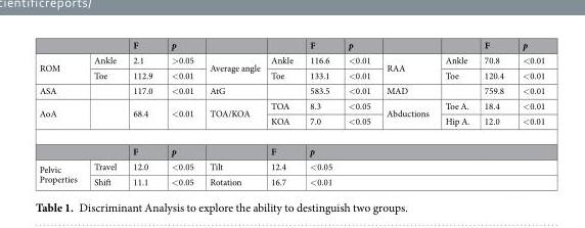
<table><thead><tr><td></td><td></td><td>F</td><td>p</td><td></td><td></td><td>F</td><td>p</td><td></td><td></td><td>F</td><td>p</td></tr></thead><tbody><tr><td rowspan="2">ROM</td><td>Ankle</td><td>2.1</td><td>&gt;0.05</td><td rowspan="2">Average angle</td><td>Ankle</td><td>116.6</td><td>&lt;0.01</td><td rowspan="2">RAA</td><td>Ankle</td><td>70.8</td><td>&lt;0.01</td></tr><tr><td>Toe</td><td>112.9</td><td>&lt;0.01</td><td>Toe</td><td>133.1</td><td>&lt;0.01</td><td>Toe</td><td>120.4</td><td>&lt;0.01</td></tr><tr><td>ASA</td><td></td><td>117.0</td><td>&lt;0.01</td><td>AtG</td><td></td><td>583.5</td><td>&lt;0.01</td><td>MAD</td><td></td><td>759.8</td><td>&lt;0.01</td></tr><tr><td rowspan="2">AoA</td><td rowspan="2"></td><td rowspan="2">68.4</td><td rowspan="2">&lt;0.01</td><td rowspan="2">TOA/KOA</td><td>TOA</td><td>8.3</td><td>&lt;0.05</td><td rowspan="2">Abductions</td><td>Toe A.</td><td>18.4</td><td>&lt;0.01</td></tr><tr><td>KOA</td><td>7.0</td><td>&lt;0.05</td><td>Hip A.</td><td>12.0</td><td>&lt;0.01</td></tr><tr><td colspan="2"></td><td>F</td><td>p</td><td></td><td>F</td><td colspan="6">p</td></tr><tr><td rowspan="2">Pelvic Properties</td><td>Travel</td><td>12.0</td><td>&lt;0.05</td><td>Tilt</td><td>12.4</td><td colspan="6">&lt;0.05</td></tr><tr><td>Shift</td><td>11.1</td><td>&lt;0.05</td><td>Rotation</td><td>16.7</td><td colspan="6">&lt;0.01</td></tr></tbody></table>